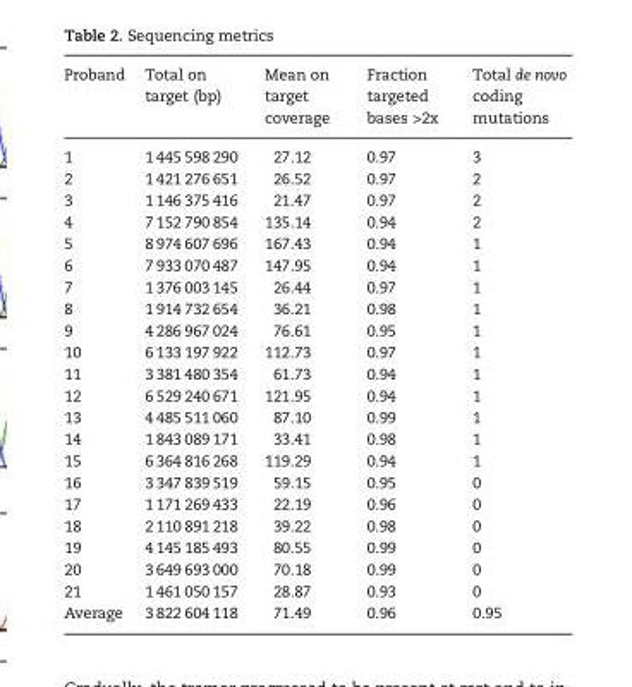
<table><thead><tr><td>Proband</td><td>Total on target (bp)</td><td>Mean on target coverage</td><td>Fraction targeted bases &gt;2x</td><td>Total de novo coding mutations</td></tr></thead><tbody><tr><td>1</td><td>1 445 598 290</td><td>27.12</td><td>0.97</td><td>3</td></tr><tr><td>2</td><td>1 421 276 651</td><td>26.52</td><td>0.97</td><td>2</td></tr><tr><td>3</td><td>1 146 375 416</td><td>21.47</td><td>0.97</td><td>2</td></tr><tr><td>4</td><td>7 152 790 854</td><td>135.14</td><td>0.94</td><td>2</td></tr><tr><td>5</td><td>8 974 607 696</td><td>167.43</td><td>0.94</td><td>1</td></tr><tr><td>6</td><td>7 933 070 487</td><td>147.95</td><td>0.94</td><td>1</td></tr><tr><td>7</td><td>1 376 003 145</td><td>26.44</td><td>0.97</td><td>1</td></tr><tr><td>8</td><td>1 914 732 654</td><td>36.21</td><td>0.98</td><td>1</td></tr><tr><td>9</td><td>4 286 967 024</td><td>76.61</td><td>0.95</td><td>1</td></tr><tr><td>10</td><td>6 133 197 922</td><td>112.73</td><td>0.97</td><td>1</td></tr><tr><td>11</td><td>3 381 480 354</td><td>61.73</td><td>0.94</td><td>1</td></tr><tr><td>12</td><td>6 529 240 671</td><td>121.95</td><td>0.94</td><td>1</td></tr><tr><td>13</td><td>4 485 511 060</td><td>87.10</td><td>0.99</td><td>1</td></tr><tr><td>14</td><td>1 843 089 171</td><td>33.41</td><td>0.98</td><td>1</td></tr><tr><td>15</td><td>6 364 816 268</td><td>119.29</td><td>0.94</td><td>1</td></tr><tr><td>16</td><td>3 347 839 519</td><td>59.15</td><td>0.95</td><td>0</td></tr><tr><td>17</td><td>1 171 269 433</td><td>22.19</td><td>0.96</td><td>0</td></tr><tr><td>18</td><td>2 110 891 218</td><td>39.22</td><td>0.98</td><td>0</td></tr><tr><td>19</td><td>4 145 185 493</td><td>80.55</td><td>0.99</td><td>0</td></tr><tr><td>20</td><td>3 649 693 000</td><td>70.18</td><td>0.99</td><td>0</td></tr><tr><td>21</td><td>1 461 050 157</td><td>28.87</td><td>0.93</td><td>0</td></tr><tr><td>Average</td><td>3 822 604 118</td><td>71.49</td><td>0.96</td><td>0.95</td></tr></tbody></table>